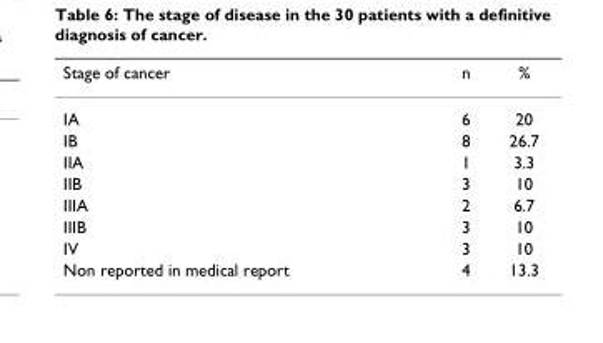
<table><thead><tr><td>Stage of cancer</td><td>n</td><td>%</td></tr></thead><tbody><tr><td>IA</td><td>6</td><td>20</td></tr><tr><td>IB</td><td>8</td><td>26.7</td></tr><tr><td>IIA</td><td>1</td><td>3.3</td></tr><tr><td>IIB</td><td>3</td><td>10</td></tr><tr><td>IIIA</td><td>2</td><td>6.7</td></tr><tr><td>IIIB</td><td>3</td><td>10</td></tr><tr><td>IV</td><td>3</td><td>10</td></tr><tr><td>Non reported in medical report</td><td>4</td><td>13.3</td></tr></tbody></table>